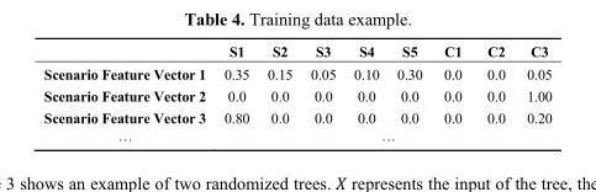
<table><thead><tr><td></td><td>S1</td><td>S2</td><td>S3</td><td>S4</td><td>S5</td><td>C1</td><td>C2</td><td>C3</td></tr></thead><tbody><tr><td>Scenario Feature Vector 1</td><td>0.35</td><td>0.15</td><td>0.05</td><td>0.10</td><td>0.30</td><td>0.0</td><td>0.0</td><td>0.05</td></tr><tr><td>Scenario Feature Vector 2</td><td>0.0</td><td>0.0</td><td>0.0</td><td>0.0</td><td>0.0</td><td>0.0</td><td>0.0</td><td>1.00</td></tr><tr><td>Scenario Feature Vector 3</td><td>0.80</td><td>0.0</td><td>0.0</td><td>0.0</td><td>0.0</td><td>0.0</td><td>0.0</td><td>0.20</td></tr><tr><td>···</td><td colspan="8">···</td></tr></tbody></table>